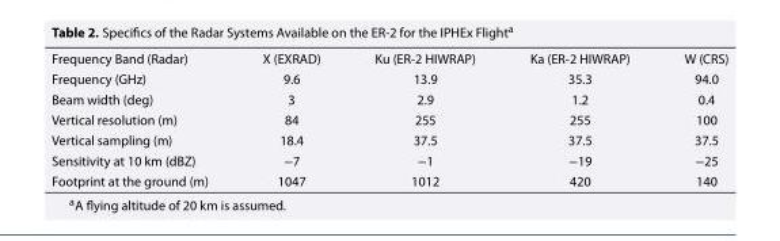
<table><thead><tr><td>Frequency Band (Radar)</td><td>X (EXRAD)</td><td>Ku (ER-2 HIWRAP)</td><td>Ka (ER-2 HIWRAP)</td><td>W (CRS)</td></tr></thead><tbody><tr><td>Frequency (GHz)</td><td>9.6</td><td>13.9</td><td>35.3</td><td>94.0</td></tr><tr><td>Beam width (deg)</td><td>3</td><td>2.9</td><td>1.2</td><td>0.4</td></tr><tr><td>Vertical resolution (m)</td><td>84</td><td>255</td><td>255</td><td>100</td></tr><tr><td>Vertical sampling (m)</td><td>18.4</td><td>37.5</td><td>37.5</td><td>37.5</td></tr><tr><td>Sensitivity at 10 km (dBZ)</td><td>−7</td><td>−1</td><td>−19</td><td>−25</td></tr><tr><td>Footprint at the ground (m)</td><td>1047</td><td>1012</td><td>420</td><td>140</td></tr></tbody></table>